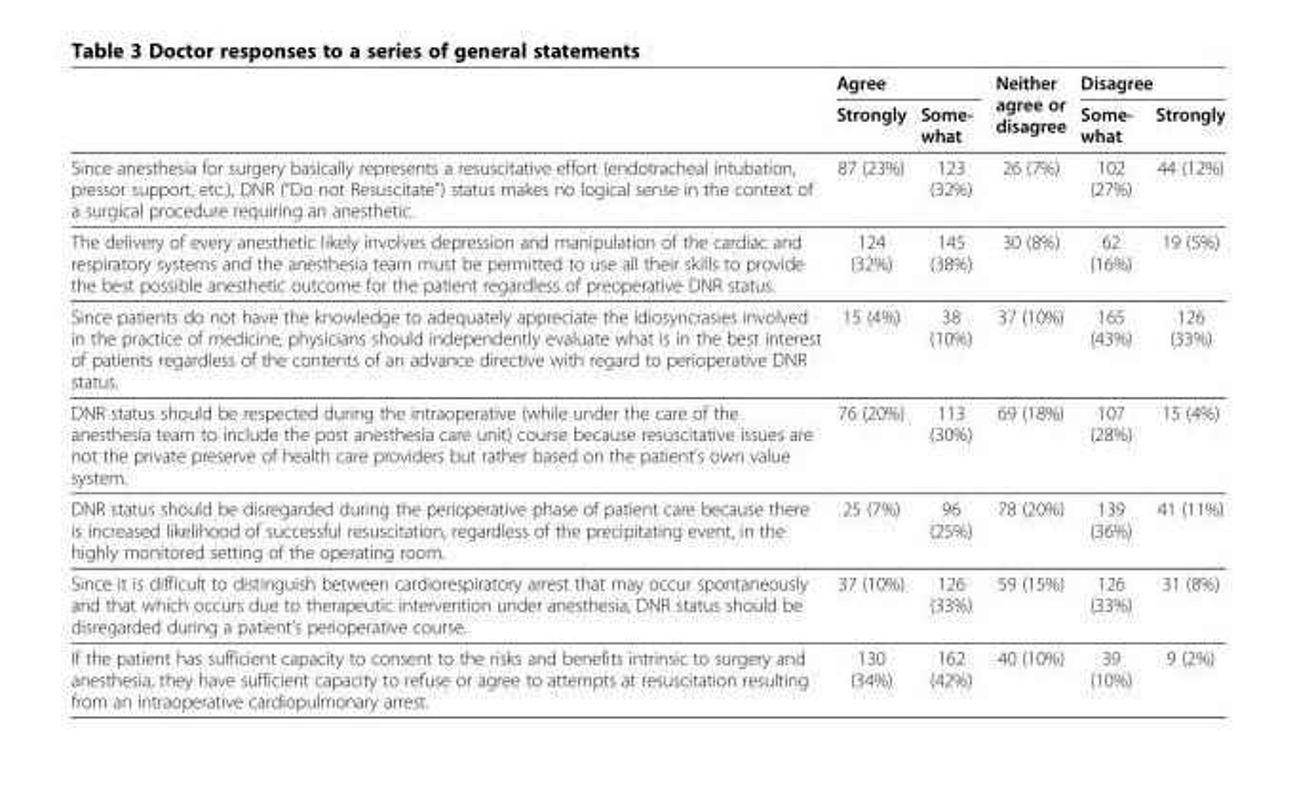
<table><thead><tr><td rowspan="2"></td><td colspan="2">Agree</td><td rowspan="2">Neither agree or disagree</td><td colspan="2">Disagree</td></tr><tr><td>Strongly</td><td>Some- what</td><td>Some- what</td><td>Strongly</td></tr></thead><tbody><tr><td>Since anesthesia for surgery basically represents a resuscitative effort (endotracheal intubation, pressor support, etc.), DNR (“Do not Resuscitate”) status makes no logical sense in the context of a surgical procedure requiring an anesthetic.</td><td>87 (23%)</td><td>123 (32%)</td><td>26 (7%)</td><td>102 (27%)</td><td>44 (12%)</td></tr><tr><td>The delivery of every anesthetic likely involves depression and manipulation of the cardiac and respiratory systems and the anesthesia team must be permitted to use all their skills to provide the best possible anesthetic outcome for the patient regardless of preoperative DNR status.</td><td>124 (32%)</td><td>145 (38%)</td><td>30 (8%)</td><td>62 (16%)</td><td>19 (5%)</td></tr><tr><td>Since patients do not have the knowledge to adequately appreciate the idiosyncrasies involved in the practice of medicine, physicians should independently evaluate what is in the best interest of patients regardless of the contents of an advance directive with regard to perioperative DNR status.</td><td>15 (4%)</td><td>38 (10%)</td><td>37 (10%)</td><td>165 (43%)</td><td>126 (33%)</td></tr><tr><td>DNR status should be respected during the intraoperative (while under the care of the anesthesia team to include the post anesthesia care unit) course because resuscitative issues are not the private preserve of health care providers but rather based on the patient’s own value system.</td><td>76 (20%)</td><td>113 (30%)</td><td>69 (18%)</td><td>107 (28%)</td><td>15 (4%)</td></tr><tr><td>DNR status should be disregarded during the perioperative phase of patient care because there is increased likelihood of successful resuscitation, regardless of the precipitating event, in the highly monitored setting of the operating room.</td><td>25 (7%)</td><td>96 (25%)</td><td>78 (20%)</td><td>139 (36%)</td><td>41 (11%)</td></tr><tr><td>Since it is difficult to distinguish between cardiorespiratory arrest that may occur spontaneously and that which occurs due to therapeutic intervention under anesthesia, DNR status should be disregarded during a patient’s perioperative course.</td><td>37 (10%)</td><td>126 (33%)</td><td>59 (15%)</td><td>126 (33%)</td><td>31 (8%)</td></tr><tr><td>If the patient has sufficient capacity to consent to the risks and benefits intrinsic to surgery and anesthesia, they have sufficient capacity to refuse or agree to attempts at resuscitation resulting from an intraoperative cardiopulmonary arrest.</td><td>130 (34%)</td><td>162 (42%)</td><td>40 (10%)</td><td>39 (10%)</td><td>9 (2%)</td></tr></tbody></table>